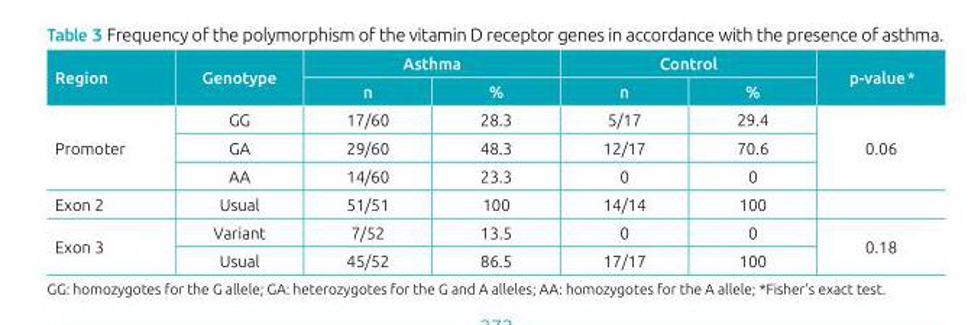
<table><thead><tr><td rowspan="2">Region</td><td rowspan="2">Genotype</td><td colspan="2">Asthma</td><td colspan="2">Control</td><td rowspan="2">p‑value*</td></tr><tr><td>n</td><td>%</td><td>n</td><td>%</td></tr></thead><tbody><tr><td rowspan="3">Promoter</td><td>GG</td><td>17/60</td><td>28.3</td><td>5/17</td><td>29.4</td><td rowspan="3">0.06</td></tr><tr><td>GA</td><td>29/60</td><td>48.3</td><td>12/17</td><td>70.6</td></tr><tr><td>AA</td><td>14/60</td><td>23.3</td><td>0</td><td>0</td></tr><tr><td>Exon 2</td><td>Usual</td><td>51/51</td><td>100</td><td>14/14</td><td>100</td><td></td></tr><tr><td rowspan="2">Exon 3</td><td>Variant</td><td>7/52</td><td>13.5</td><td>0</td><td>0</td><td rowspan="2">0.18</td></tr><tr><td>Usual</td><td>45/52</td><td>86.5</td><td>17/17</td><td>100</td></tr></tbody></table>